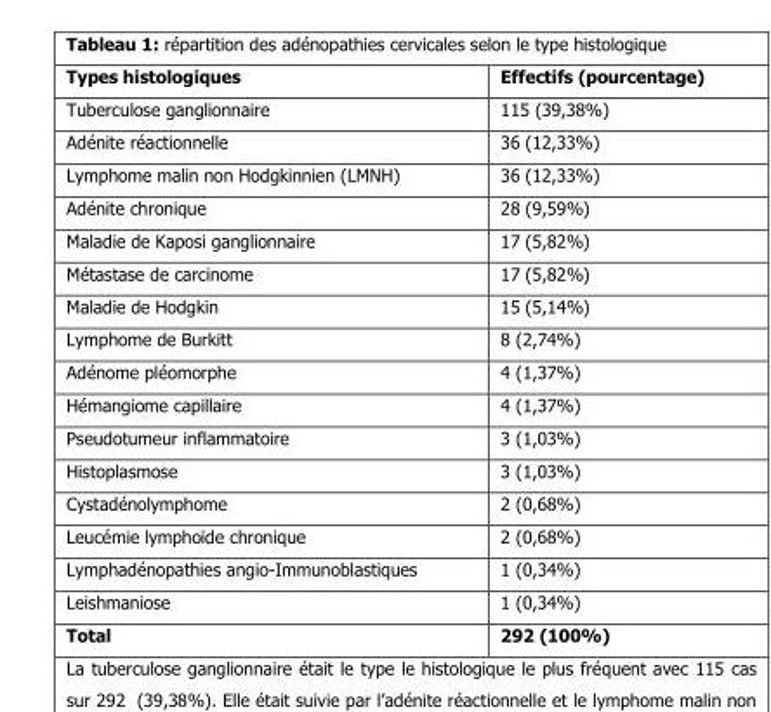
<table><thead><tr><td>Types histologiques</td><td>Effectifs (pourcentage)</td></tr></thead><tbody><tr><td>Tuberculose ganglionnaire</td><td>115 (39,38%)</td></tr><tr><td>Adénite réactionnelle</td><td>36 (12,33%)</td></tr><tr><td>Lymphome malin non Hodgkinnien (LMNH)</td><td>36 (12,33%)</td></tr><tr><td>Adénite chronique</td><td>28 (9,59%)</td></tr><tr><td>Maladie de Kaposi ganglionnaire</td><td>17 (5,82%)</td></tr><tr><td>Métastase de carcinome</td><td>17 (5,82%)</td></tr><tr><td>Maladie de Hodgkin</td><td>15 (5,14%)</td></tr><tr><td>Lymphome de Burkitt</td><td>8 (2,74%)</td></tr><tr><td>Adénome pléomorphe</td><td>4 (1,37%)</td></tr><tr><td>Hémangiome capillaire</td><td>4 (1,37%)</td></tr><tr><td>Pseudotumeur inflammatoire</td><td>3 (1,03%)</td></tr><tr><td>Histoplasmose</td><td>3 (1,03%)</td></tr><tr><td>Cystadénolymphome</td><td>2 (0,68%)</td></tr><tr><td>Leucémie lymphoïde chronique</td><td>2 (0,68%)</td></tr><tr><td>Lymphadénopathies angio-Immunoblastiques</td><td>1 (0,34%)</td></tr><tr><td>Leishmaniose</td><td>1 (0,34%)</td></tr><tr><td>Total</td><td>292 (100%)</td></tr></tbody></table>